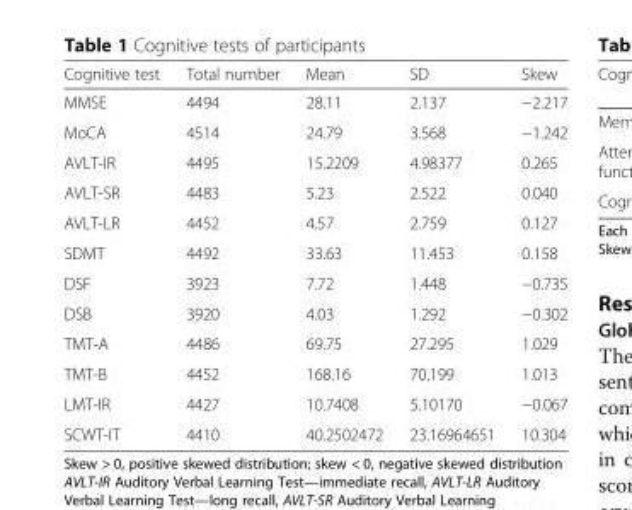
<table><thead><tr><td>Cognitive test</td><td>Total number</td><td>Mean</td><td>SD</td><td>Skew</td></tr></thead><tbody><tr><td>MMSE</td><td>4494</td><td>28.11</td><td>2.137</td><td>−2.217</td></tr><tr><td>MoCA</td><td>4514</td><td>24.79</td><td>3.568</td><td>−1.242</td></tr><tr><td>AVLT-IR</td><td>4495</td><td>15.2209</td><td>4.98377</td><td>0.265</td></tr><tr><td>AVLT-SR</td><td>4483</td><td>5.23</td><td>2.522</td><td>0.040</td></tr><tr><td>AVLT-LR</td><td>4452</td><td>4.57</td><td>2.759</td><td>0.127</td></tr><tr><td>SDMT</td><td>4492</td><td>33.63</td><td>11.453</td><td>0.158</td></tr><tr><td>DSF</td><td>3923</td><td>7.72</td><td>1.448</td><td>−0.735</td></tr><tr><td>DSB</td><td>3920</td><td>4.03</td><td>1.292</td><td>−0.302</td></tr><tr><td>TMT-A</td><td>4486</td><td>69.75</td><td>27.295</td><td>1.029</td></tr><tr><td>TMT-B</td><td>4452</td><td>168.16</td><td>70.199</td><td>1.013</td></tr><tr><td>LMT-IR</td><td>4427</td><td>10.7408</td><td>5.10170</td><td>−0.067</td></tr><tr><td>SCWT-IT</td><td>4410</td><td>40.2502472</td><td>23.16964651</td><td>10.304</td></tr></tbody></table>